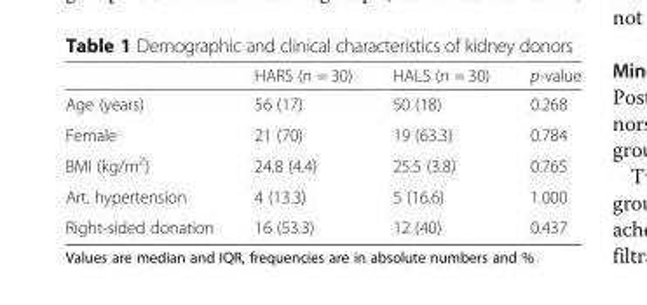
<table><thead><tr><td></td><td>HARS (n = 30)</td><td>HALS (n = 30)</td><td>p-value</td></tr></thead><tbody><tr><td>Age (years)</td><td>56 (17)</td><td>50 (18)</td><td>0.268</td></tr><tr><td>Female</td><td>21 (70)</td><td>19 (63.3)</td><td>0.784</td></tr><tr><td>BMI (kg/m<sup>2</sup>)</td><td>24.8 (4.4)</td><td>25.5 (3.8)</td><td>0.765</td></tr><tr><td>Art. hypertension</td><td>4 (13.3)</td><td>5 (16.6)</td><td>1.000</td></tr><tr><td>Right-sided donation</td><td>16 (53.3)</td><td>12 (40)</td><td>0.437</td></tr></tbody></table>